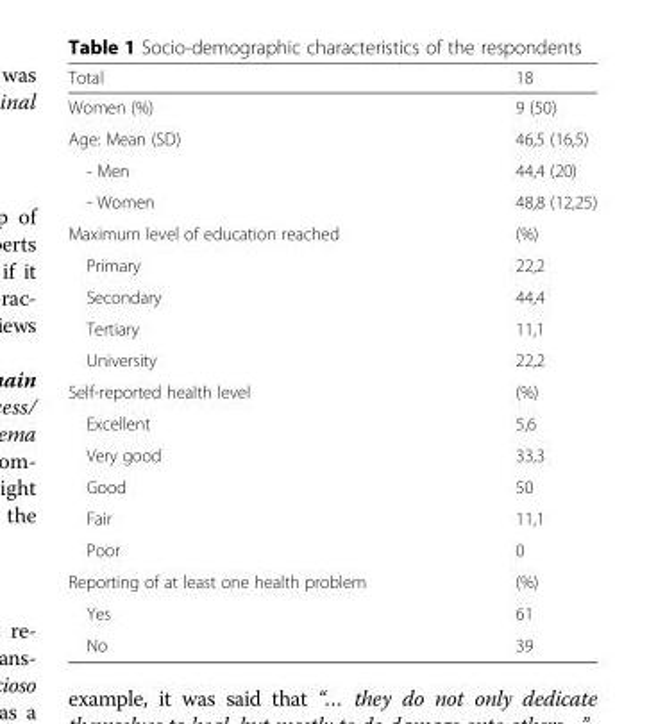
<table><thead><tr><td>Total</td><td>18</td></tr></thead><tbody><tr><td>Women (%)</td><td>9 (50)</td></tr><tr><td>Age: Mean (SD)</td><td>46,5 (16,5)</td></tr><tr><td>- Men</td><td>44,4 (20)</td></tr><tr><td>- Women</td><td>48,8 (12,25)</td></tr><tr><td>Maximum level of education reached</td><td>(%)</td></tr><tr><td>Primary</td><td>22,2</td></tr><tr><td>Secondary</td><td>44,4</td></tr><tr><td>Tertiary</td><td>11,1</td></tr><tr><td>University</td><td>22,2</td></tr><tr><td>Self-reported health level</td><td>(%)</td></tr><tr><td>Excellent</td><td>5,6</td></tr><tr><td>Very good</td><td>33,3</td></tr><tr><td>Good</td><td>50</td></tr><tr><td>Fair</td><td>11,1</td></tr><tr><td>Poor</td><td>0</td></tr><tr><td>Reporting of at least one health problem</td><td>(%)</td></tr><tr><td>Yes</td><td>61</td></tr><tr><td>No</td><td>39</td></tr></tbody></table>